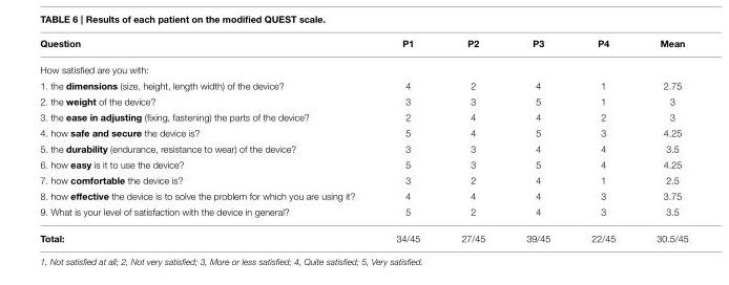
<table><thead><tr><td>Question</td><td>P1</td><td>P2</td><td>P3</td><td>P4</td><td>Mean</td></tr></thead><tbody><tr><td colspan="6">How satisfied are you with:</td></tr><tr><td>1. the dimensions (size, height, length width) of the device?</td><td>4</td><td>2</td><td>4</td><td>1</td><td>2.75</td></tr><tr><td>2. the weight of the device?</td><td>3</td><td>3</td><td>5</td><td>1</td><td>3</td></tr><tr><td>3. the ease in adjusting (fixing, fastening) the parts of the device?</td><td>2</td><td>4</td><td>4</td><td>2</td><td>3</td></tr><tr><td>4. how safe and secure the device is?</td><td>5</td><td>4</td><td>5</td><td>3</td><td>4.25</td></tr><tr><td>5. the durability (endurance, resistance to wear) of the device?</td><td>3</td><td>3</td><td>4</td><td>4</td><td>3.5</td></tr><tr><td>6. how easy is it to use the device?</td><td>5</td><td>3</td><td>5</td><td>4</td><td>4.25</td></tr><tr><td>7. how comfortable the device is?</td><td>3</td><td>2</td><td>4</td><td>1</td><td>2.5</td></tr><tr><td>8. how effective the device is to solve the problem for which you are using it?</td><td>4</td><td>4</td><td>4</td><td>3</td><td>3.75</td></tr><tr><td>9. What is your level of satisfaction with the device in general?</td><td>5</td><td>2</td><td>4</td><td>3</td><td>3.5</td></tr><tr><td>Total:</td><td>34/45</td><td>27/45</td><td>39/45</td><td>22/45</td><td>30.5/45</td></tr></tbody></table>